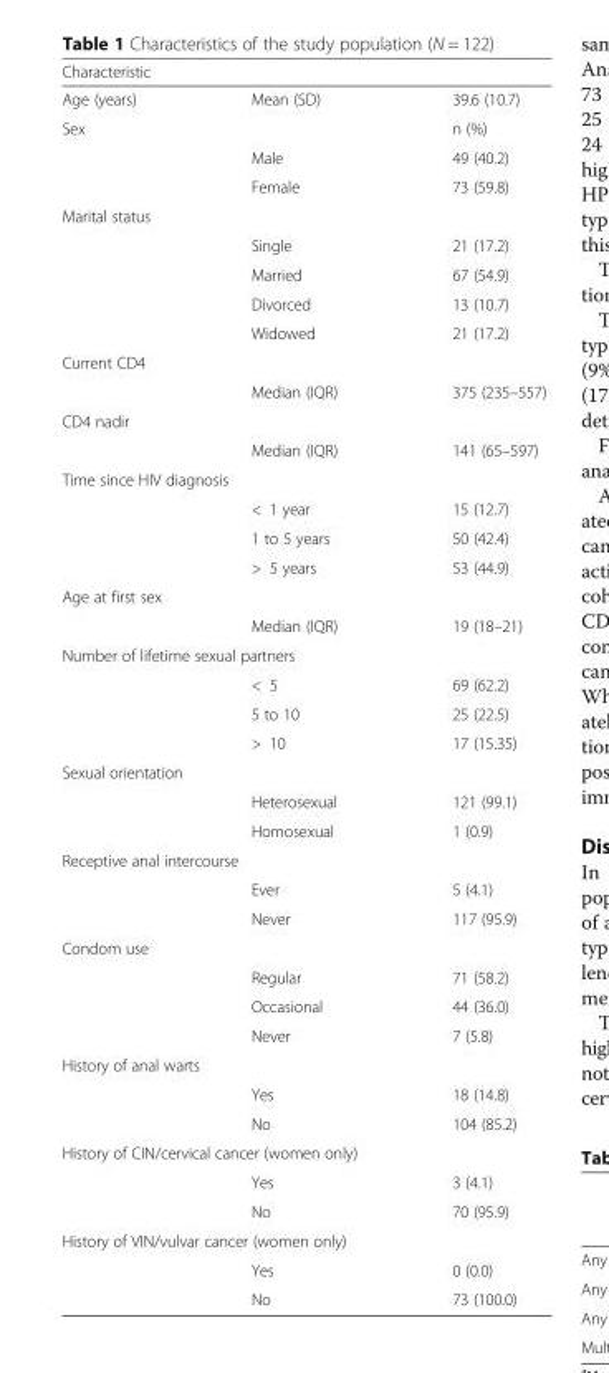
<table><thead><tr><td colspan="3">Characteristic</td></tr><tr><td>Age (years)</td><td>Mean (SD)</td><td>39.6 (10.7)</td></tr></thead><tbody><tr><td colspan="2">Sex</td><td>n (%)</td></tr><tr><td rowspan="2"></td><td>Male</td><td>49 (40.2)</td></tr><tr><td>Female</td><td>73 (59.8)</td></tr><tr><td colspan="3">Marital status</td></tr><tr><td rowspan="4"></td><td>Single</td><td>21 (17.2)</td></tr><tr><td>Married</td><td>67 (54.9)</td></tr><tr><td>Divorced</td><td>13 (10.7)</td></tr><tr><td>Widowed</td><td>21 (17.2)</td></tr><tr><td colspan="3">Current CD4</td></tr><tr><td></td><td>Median (IQR)</td><td>375 (235–557)</td></tr><tr><td colspan="3">CD4 nadir</td></tr><tr><td></td><td>Median (IQR)</td><td>141 (65–597)</td></tr><tr><td colspan="3">Time since HIV diagnosis</td></tr><tr><td rowspan="3"></td><td>&lt; 1 year</td><td>15 (12.7)</td></tr><tr><td>1 to 5 years</td><td>50 (42.4)</td></tr><tr><td>&gt; 5 years</td><td>53 (44.9)</td></tr><tr><td colspan="3">Age at first sex</td></tr><tr><td></td><td>Median (IQR)</td><td>19 (18–21)</td></tr><tr><td colspan="3">Number of lifetime sexual partners</td></tr><tr><td rowspan="3"></td><td>&lt; 5</td><td>69 (62.2)</td></tr><tr><td>5 to 10</td><td>25 (22.5)</td></tr><tr><td>&gt; 10</td><td>17 (15.35)</td></tr><tr><td colspan="3">Sexual orientation</td></tr><tr><td rowspan="2"></td><td>Heterosexual</td><td>121 (99.1)</td></tr><tr><td>Homosexual</td><td>1 (0.9)</td></tr><tr><td colspan="3">Receptive anal intercourse</td></tr><tr><td rowspan="2"></td><td>Ever</td><td>5 (4.1)</td></tr><tr><td>Never</td><td>117 (95.9)</td></tr><tr><td colspan="3">Condom use</td></tr><tr><td rowspan="3"></td><td>Regular</td><td>71 (58.2)</td></tr><tr><td>Occasional</td><td>44 (36.0)</td></tr><tr><td>Never</td><td>7 (5.8)</td></tr><tr><td colspan="3">History of anal warts</td></tr><tr><td rowspan="2"></td><td>Yes</td><td>18 (14.8)</td></tr><tr><td>No</td><td>104 (85.2)</td></tr><tr><td colspan="3">History of CIN/cervical cancer (women only)</td></tr><tr><td rowspan="2"></td><td>Yes</td><td>3 (4.1)</td></tr><tr><td>No</td><td>70 (95.9)</td></tr><tr><td colspan="3">History of VIN/vulvar cancer (women only)</td></tr><tr><td rowspan="2"></td><td>Yes</td><td>0 (0.0)</td></tr><tr><td>No</td><td>73 (100.0)</td></tr></tbody></table>